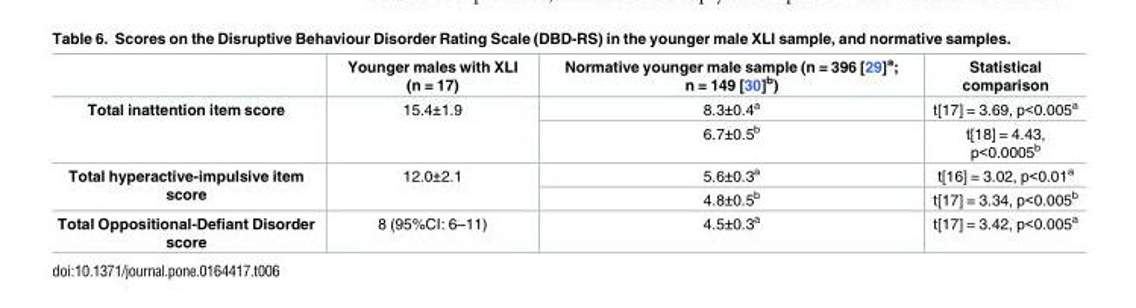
<table><thead><tr><td></td><td>Younger males with XLI (n = 17)</td><td>Normative younger male sample (n = 396 [29]<sup>a</sup>; n = 149 [30]<sup>b</sup>)</td><td>Statistical comparison</td></tr></thead><tbody><tr><td rowspan="2">Total inattention item score</td><td rowspan="2">15.4±1.9</td><td>8.3±0.4<sup>a</sup></td><td>t[17] = 3.69, p&lt;0.005<sup>a</sup></td></tr><tr><td>6.7±0.5<sup>b</sup></td><td>t[18] = 4.43, p&lt;0.0005<sup>b</sup></td></tr><tr><td rowspan="2">Total hyperactive-impulsive item score</td><td rowspan="2">12.0±2.1</td><td>5.6±0.3<sup>a</sup></td><td>t[16] = 3.02, p&lt;0.01<sup>a</sup></td></tr><tr><td>4.8±0.5<sup>b</sup></td><td>t[17] = 3.34, p&lt;0.005<sup>b</sup></td></tr><tr><td>Total Oppositional-Defiant Disorder score</td><td>8 (95%CI: 6–11)</td><td>4.5±0.3<sup>a</sup></td><td>t[17] = 3.42, p&lt;0.005<sup>a</sup></td></tr></tbody></table>